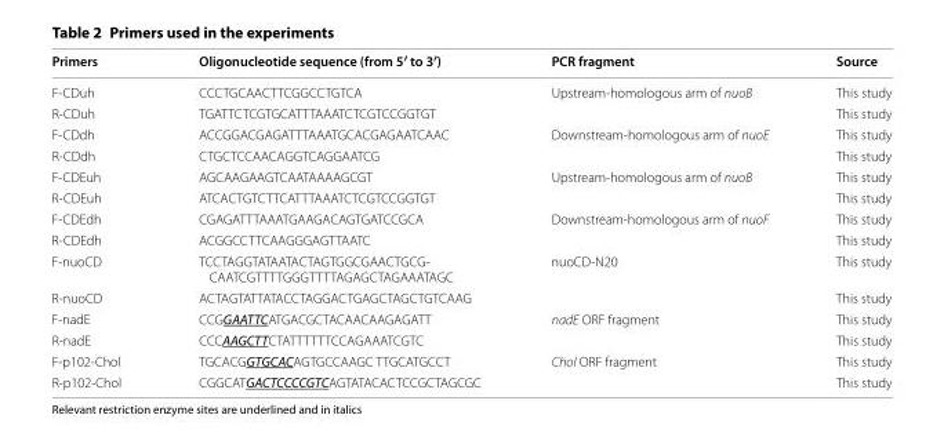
<table><thead><tr><td>Primers</td><td>Oligonucleotide sequence (from 5′ to 3′)</td><td>PCR fragment</td><td>Source</td></tr></thead><tbody><tr><td>F-CDuh</td><td>CCCTGCAACTTCGGCCTGTCA</td><td rowspan="2">Upstream-homologous arm of nuoB</td><td>This study</td></tr><tr><td>R-CDuh</td><td>TGATTCTCGTGCATTTAAATCTCGTCCGGTGT</td><td>This study</td></tr><tr><td>F-CDdh</td><td>ACCGGACGAGATTTAAATGCACGAGAATCAAC</td><td rowspan="2">Downstream-homologous arm of nuoE</td><td>This study</td></tr><tr><td>R-CDdh</td><td>CTGCTCCAACAGGTCAGGAATCG</td><td>This study</td></tr><tr><td>F-CDEuh</td><td>AGCAAGAAGTCAATAAAAGCGT</td><td rowspan="2">Upstream-homologous arm of nuoB</td><td>This study</td></tr><tr><td>R-CDEuh</td><td>ATCACTGTCTTCATTTAAATCTCGTCCGGTGT</td><td>This study</td></tr><tr><td>F-CDEdh</td><td>CGAGATTTAAATGAAGACAGTGATCCGCA</td><td rowspan="2">Downstream-homologous arm of nuoF</td><td>This study</td></tr><tr><td>R-CDEdh</td><td>ACGGCCTTCAAGGGAGTTAATC</td><td>This study</td></tr><tr><td>F-nuoCD</td><td>TCCTAGGTATAATACTAGTGGCGAACTGCG- CAATCGTTTTGGGTTTTAGAGCTAGAAATAGC</td><td rowspan="2">nuoCD-N20</td><td>This study</td></tr><tr><td>R-nuoCD</td><td>ACTAGTATTATACCTAGGACTGAGCTAGCTGTCAAG</td><td>This study</td></tr><tr><td>F-nadE</td><td>CCGGAATTCATGACGCTACAACAAGAGATT</td><td rowspan="2">nadE ORF fragment</td><td>This study</td></tr><tr><td>R-nadE</td><td>CCCAAGCTTCTATTTTTTCCAGAAATCGTC</td><td>This study</td></tr><tr><td>F-p102-Chol</td><td>TGCACGGTGCACAGTGCCAAGC TTGCATGCCT</td><td rowspan="2">Chol ORF fragment</td><td>This study</td></tr><tr><td>R-p102-Chol</td><td>CGGCATGACTCCCCGTCAGTATACACTCCGCTAGCGC</td><td>This study</td></tr></tbody></table>